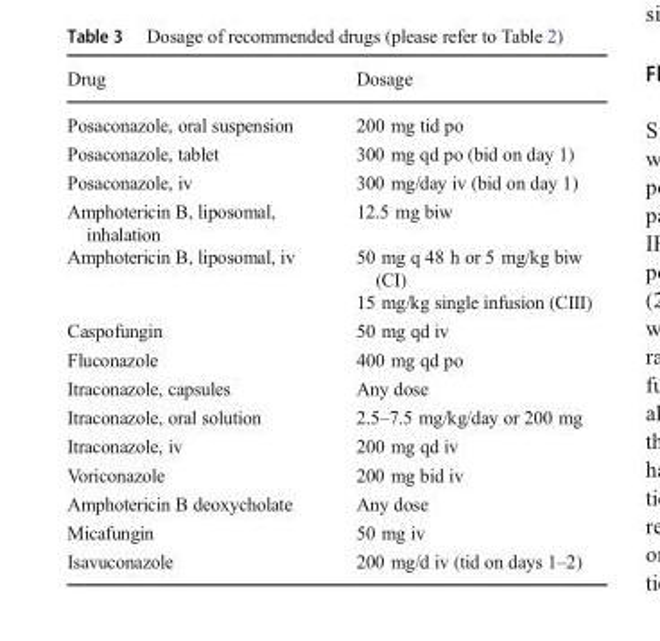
<table><thead><tr><td>Drug</td><td>Dosage</td></tr></thead><tbody><tr><td>Posaconazole, oral suspension</td><td>200 mg tid po</td></tr><tr><td>Posaconazole, tablet</td><td>300 mg qd po (bid on day 1)</td></tr><tr><td>Posaconazole, iv</td><td>300 mg/day iv (bid on day 1)</td></tr><tr><td>Amphotericin B, liposomal, inhalation</td><td>12.5 mg biw</td></tr><tr><td>Amphotericin B, liposomal, iv</td><td>50 mg q 48 h or 5 mg/kg biw (CI) 15 mg/kg single infusion (CIII)</td></tr><tr><td>Caspofungin</td><td>50 mg qd iv</td></tr><tr><td>Fluconazole</td><td>400 mg qd po</td></tr><tr><td>Itraconazole, capsules</td><td>Any dose</td></tr><tr><td>Itraconazole, oral solution</td><td>2.5–7.5 mg/kg/day or 200 mg</td></tr><tr><td>Itraconazole, iv</td><td>200 mg qd iv</td></tr><tr><td>Voriconazole</td><td>200 mg bid iv</td></tr><tr><td>Amphotericin B deoxycholate</td><td>Any dose</td></tr><tr><td>Micafungin</td><td>50 mg iv</td></tr><tr><td>Isavuconazole</td><td>200 mg/d iv (tid on days 1–2)</td></tr></tbody></table>